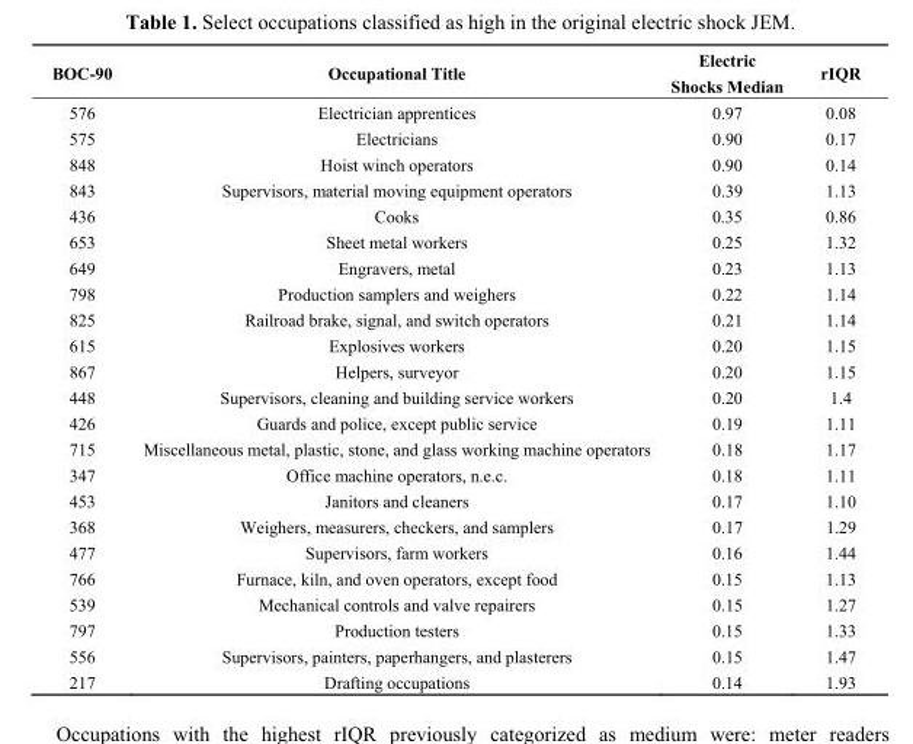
<table><thead><tr><td>BOC-90</td><td>Occupational Title</td><td>Electric Shocks Median</td><td>rIQR</td></tr></thead><tbody><tr><td>576</td><td>Electrician apprentices</td><td>0.97</td><td>0.08</td></tr><tr><td>575</td><td>Electricians</td><td>0.90</td><td>0.17</td></tr><tr><td>848</td><td>Hoist winch operators</td><td>0.90</td><td>0.14</td></tr><tr><td>843</td><td>Supervisors, material moving equipment operators</td><td>0.39</td><td>1.13</td></tr><tr><td>436</td><td>Cooks</td><td>0.35</td><td>0.86</td></tr><tr><td>653</td><td>Sheet metal workers</td><td>0.25</td><td>1.32</td></tr><tr><td>649</td><td>Engravers, metal</td><td>0.23</td><td>1.13</td></tr><tr><td>798</td><td>Production samplers and weighers</td><td>0.22</td><td>1.14</td></tr><tr><td>825</td><td>Railroad brake, signal, and switch operators</td><td>0.21</td><td>1.14</td></tr><tr><td>615</td><td>Explosives workers</td><td>0.20</td><td>1.15</td></tr><tr><td>867</td><td>Helpers, surveyor</td><td>0.20</td><td>1.15</td></tr><tr><td>448</td><td>Supervisors, cleaning and building service workers</td><td>0.20</td><td>1.4</td></tr><tr><td>426</td><td>Guards and police, except public service</td><td>0.19</td><td>1.11</td></tr><tr><td>715</td><td>Miscellaneous metal, plastic, stone, and glass working machine operators</td><td>0.18</td><td>1.17</td></tr><tr><td>347</td><td>Office machine operators, n.e.c.</td><td>0.18</td><td>1.11</td></tr><tr><td>453</td><td>Janitors and cleaners</td><td>0.17</td><td>1.10</td></tr><tr><td>368</td><td>Weighers, measurers, checkers, and samplers</td><td>0.17</td><td>1.29</td></tr><tr><td>477</td><td>Supervisors, farm workers</td><td>0.16</td><td>1.44</td></tr><tr><td>766</td><td>Furnace, kiln, and oven operators, except food</td><td>0.15</td><td>1.13</td></tr><tr><td>539</td><td>Mechanical controls and valve repairers</td><td>0.15</td><td>1.27</td></tr><tr><td>797</td><td>Production testers</td><td>0.15</td><td>1.33</td></tr><tr><td>556</td><td>Supervisors, painters, paperhangers, and plasterers</td><td>0.15</td><td>1.47</td></tr><tr><td>217</td><td>Drafting occupations</td><td>0.14</td><td>1.93</td></tr></tbody></table>